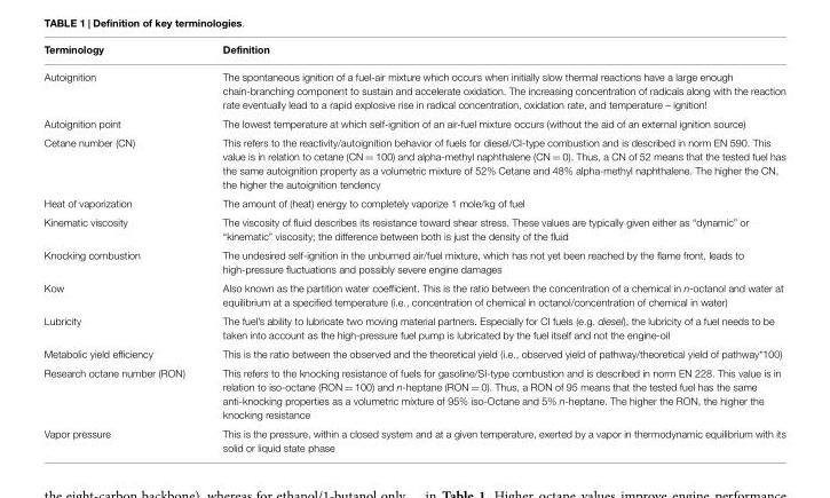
<table><thead><tr><td>Terminology</td><td>Definition</td></tr></thead><tbody><tr><td>Autoignition</td><td>The spontaneous ignition of a fuel-air mixture which occurs when initially slow thermal reactions have a large enough chain-branching component to sustain and accelerate oxidation. The increasing concentration of radicals along with the reaction rate eventually lead to a rapid explosive rise in radical concentration, oxidation rate, and temperature – ignition!</td></tr><tr><td>Autoignition point</td><td>The lowest temperature at which self-ignition of an air-fuel mixture occurs (without the aid of an external ignition source)</td></tr><tr><td>Cetane number (CN)</td><td>This refers to the reactivity/autoignition behavior of fuels for diesel/CI-type combustion and is described in norm EN 590. This value is in relation to cetane (CN = 100) and alpha-methyl naphthalene (CN = 0). Thus, a CN of 52 means that the tested fuel has the same autoignition property as a volumetric mixture of 52% Cetane and 48% alpha-methyl naphthalene. The higher the CN, the higher the autoignition tendency</td></tr><tr><td>Heat of vaporization</td><td>The amount of (heat) energy to completely vaporize 1 mole/kg of fuel</td></tr><tr><td>Kinematic viscosity</td><td>The viscosity of fluid describes its resistance toward shear stress. These values are typically given either as “dynamic” or “kinematic” viscosity; the difference between both is just the density of the fluid</td></tr><tr><td>Knocking combustion</td><td>The undesired self-ignition in the unburned air/fuel mixture, which has not yet been reached by the flame front, leads to high-pressure fluctuations and possibly severe engine damages</td></tr><tr><td>Kow</td><td>Also known as the partition water coefficient. This is the ratio between the concentration of a chemical in n-octanol and water at equilibrium at a specified temperature (i.e., concentration of chemical in octanol/concentration of chemical in water)</td></tr><tr><td>Lubricity</td><td>The fuel’s ability to lubricate two moving material partners. Especially for CI fuels (e.g. diesel), the lubricity of a fuel needs to be taken into account as the high-pressure fuel pump is lubricated by the fuel itself and not the engine-oil</td></tr><tr><td>Metabolic yield efficiency</td><td>This is the ratio between the observed and the theoretical yield (i.e., observed yield of pathway/theoretical yield of pathway*100)</td></tr><tr><td>Research octane number (RON)</td><td>This refers to the knocking resistance of fuels for gasoline/SI-type combustion and is described in norm EN 228. This value is in relation to iso-octane (RON = 100) and n-heptane (RON = 0). Thus, a RON of 95 means that the tested fuel has the same anti-knocking properties as a volumetric mixture of 95% iso-Octane and 5% n-heptane. The higher the RON, the higher the knocking resistance</td></tr><tr><td>Vapor pressure</td><td>This is the pressure, within a closed system and at a given temperature, exerted by a vapor in thermodynamic equilibrium with its solid or liquid state phase</td></tr></tbody></table>